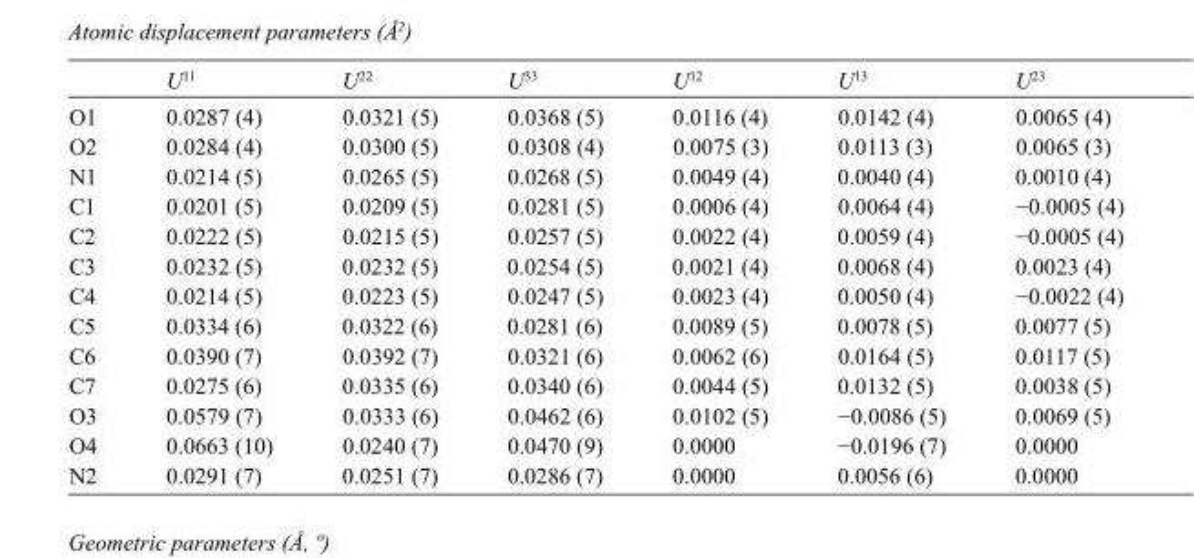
<table><thead><tr><td></td><td>U<sup>11</sup></td><td>U<sup>22</sup></td><td>U<sup>33</sup></td><td>U<sup>12</sup></td><td>U<sup>13</sup></td><td>U<sup>23</sup></td></tr></thead><tbody><tr><td>O1</td><td>0.0287 (4)</td><td>0.0321 (5)</td><td>0.0368 (5)</td><td>0.0116 (4)</td><td>0.0142 (4)</td><td>0.0065 (4)</td></tr><tr><td>O2</td><td>0.0284 (4)</td><td>0.0300 (5)</td><td>0.0308 (4)</td><td>0.0075 (3)</td><td>0.0113 (3)</td><td>0.0065 (3)</td></tr><tr><td>N1</td><td>0.0214 (5)</td><td>0.0265 (5)</td><td>0.0268 (5)</td><td>0.0049 (4)</td><td>0.0040 (4)</td><td>0.0010 (4)</td></tr><tr><td>C1</td><td>0.0201 (5)</td><td>0.0209 (5)</td><td>0.0281 (5)</td><td>0.0006 (4)</td><td>0.0064 (4)</td><td>−0.0005 (4)</td></tr><tr><td>C2</td><td>0.0222 (5)</td><td>0.0215 (5)</td><td>0.0257 (5)</td><td>0.0022 (4)</td><td>0.0059 (4)</td><td>−0.0005 (4)</td></tr><tr><td>C3</td><td>0.0232 (5)</td><td>0.0232 (5)</td><td>0.0254 (5)</td><td>0.0021 (4)</td><td>0.0068 (4)</td><td>0.0023 (4)</td></tr><tr><td>C4</td><td>0.0214 (5)</td><td>0.0223 (5)</td><td>0.0247 (5)</td><td>0.0023 (4)</td><td>0.0050 (4)</td><td>−0.0022 (4)</td></tr><tr><td>C5</td><td>0.0334 (6)</td><td>0.0322 (6)</td><td>0.0281 (6)</td><td>0.0089 (5)</td><td>0.0078 (5)</td><td>0.0077 (5)</td></tr><tr><td>C6</td><td>0.0390 (7)</td><td>0.0392 (7)</td><td>0.0321 (6)</td><td>0.0062 (6)</td><td>0.0164 (5)</td><td>0.0117 (5)</td></tr><tr><td>C7</td><td>0.0275 (6)</td><td>0.0335 (6)</td><td>0.0340 (6)</td><td>0.0044 (5)</td><td>0.0132 (5)</td><td>0.0038 (5)</td></tr><tr><td>O3</td><td>0.0579 (7)</td><td>0.0333 (6)</td><td>0.0462 (6)</td><td>0.0102 (5)</td><td>−0.0086 (5)</td><td>0.0069 (5)</td></tr><tr><td>O4</td><td>0.0663 (10)</td><td>0.0240 (7)</td><td>0.0470 (9)</td><td>0.0000</td><td>−0.0196 (7)</td><td>0.0000</td></tr><tr><td>N2</td><td>0.0291 (7)</td><td>0.0251 (7)</td><td>0.0286 (7)</td><td>0.0000</td><td>0.0056 (6)</td><td>0.0000</td></tr></tbody></table>